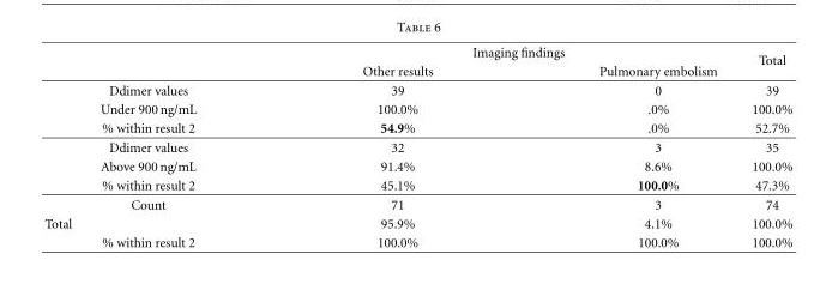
<table><thead><tr><td rowspan="2"></td><td rowspan="2"></td><td colspan="2">Imaging findings</td><td rowspan="2">Total</td></tr><tr><td>Other results</td><td>Pulmonary embolism</td></tr></thead><tbody><tr><td></td><td>Ddimer values</td><td>39</td><td>0</td><td>39</td></tr><tr><td></td><td>Under 900 ng/mL</td><td>100.0%</td><td>.0%</td><td>100.0%</td></tr><tr><td></td><td>% within result 2</td><td>54.9%</td><td>.0%</td><td>52.7%</td></tr><tr><td></td><td>Ddimer values</td><td>32</td><td>3</td><td>35</td></tr><tr><td></td><td>Above 900 ng/mL</td><td>91.4%</td><td>8.6%</td><td>100.0%</td></tr><tr><td></td><td>% within result 2</td><td>45.1%</td><td>100.0%</td><td>47.3%</td></tr><tr><td></td><td>Count</td><td>71</td><td>3</td><td>74</td></tr><tr><td rowspan="2">Total</td><td></td><td>95.9%</td><td>4.1%</td><td>100.0%</td></tr><tr><td>% within result 2</td><td>100.0%</td><td>100.0%</td><td>100.0%</td></tr></tbody></table>